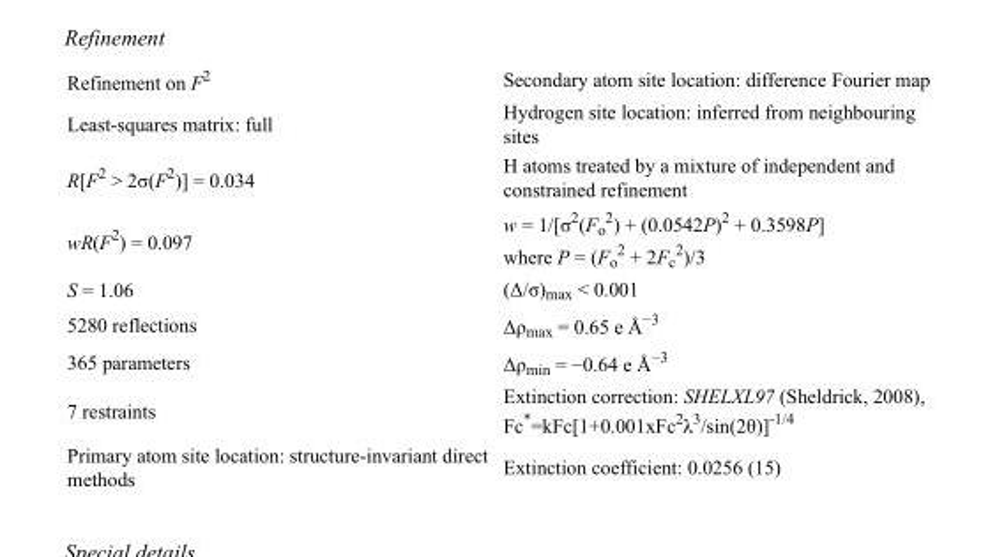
<table><tbody><tr><td>Refinement on F<sup>2</sup></td><td>Secondary atom site location: difference Fourier map</td></tr><tr><td>Least-squares matrix: full</td><td>Hydrogen site location: inferred from neighbouring sites</td></tr><tr><td>R[F<sup>2</sup> &gt; 2σ(F<sup>2</sup>)] = 0.034</td><td>H atoms treated by a mixture of independent and constrained refinement</td></tr><tr><td>wR(F<sup>2</sup>) = 0.097</td><td>w = 1/[σ<sup>2</sup>(F<sub>o</sub> <sup>2</sup>) + (0.0542P)<sup>2</sup> + 0.3598P] where P = (F<sub>o</sub> <sup>2</sup> + 2F<sub>c</sub> <sup>2</sup>)/3</td></tr><tr><td>S = 1.06</td><td>(Δ/σ)<sub>max</sub> &lt; 0.001</td></tr><tr><td>5280 reflections</td><td>Δρ<sub>max</sub> = 0.65 e Å<sup>−3</sup></td></tr><tr><td>365 parameters</td><td>Δρ<sub>min</sub> = −0.64 e Å<sup>−3</sup></td></tr><tr><td>7 restraints</td><td>Extinction correction: SHELXL97 (Sheldrick, 2008), Fc*=kFc[1+0.001xFc<sup>2</sup>λ<sup>3</sup>/sin(2θ)]<sup>-1/4</sup></td></tr><tr><td>Primary atom site location: structure-invariant direct methods</td><td>Extinction coefficient: 0.0256 (15)</td></tr></tbody></table>